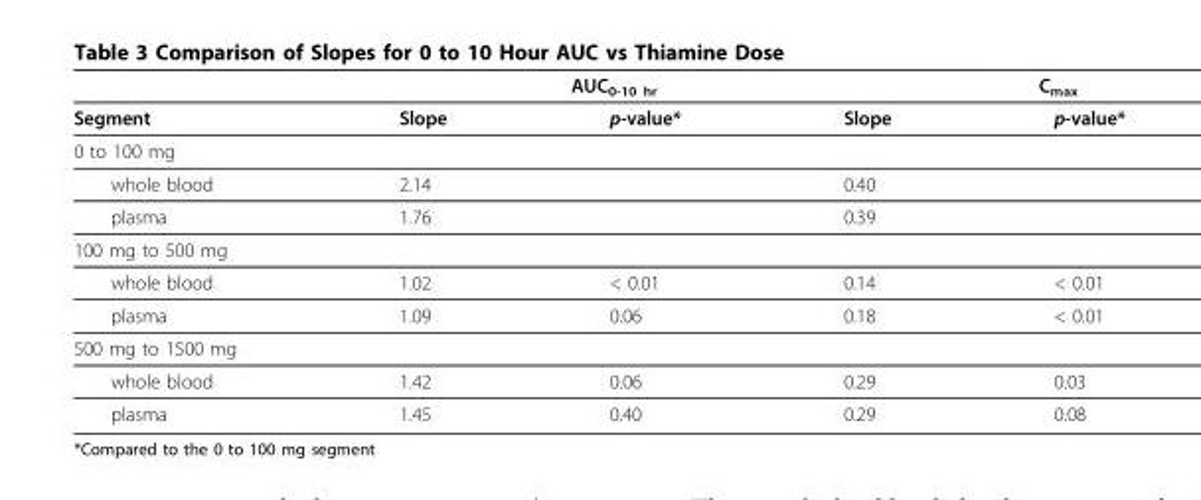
<table><thead><tr><td rowspan="2">Segment</td><td colspan="2">AUC<sub>0-10 hr</sub></td><td colspan="2">C<sub>max</sub></td></tr><tr><td>Slope</td><td>p-value*</td><td>Slope</td><td>p-value*</td></tr></thead><tbody><tr><td colspan="5">0 to 100 mg</td></tr><tr><td>whole blood</td><td>2.14</td><td></td><td>0.40</td><td></td></tr><tr><td>plasma</td><td>1.76</td><td></td><td>0.39</td><td></td></tr><tr><td colspan="5">100 mg to 500 mg</td></tr><tr><td>whole blood</td><td>1.02</td><td>&lt; 0.01</td><td>0.14</td><td>&lt; 0.01</td></tr><tr><td>plasma</td><td>1.09</td><td>0.06</td><td>0.18</td><td>&lt; 0.01</td></tr><tr><td colspan="5">500 mg to 1500 mg</td></tr><tr><td>whole blood</td><td>1.42</td><td>0.06</td><td>0.29</td><td>0.03</td></tr><tr><td>plasma</td><td>1.45</td><td>0.40</td><td>0.29</td><td>0.08</td></tr></tbody></table>